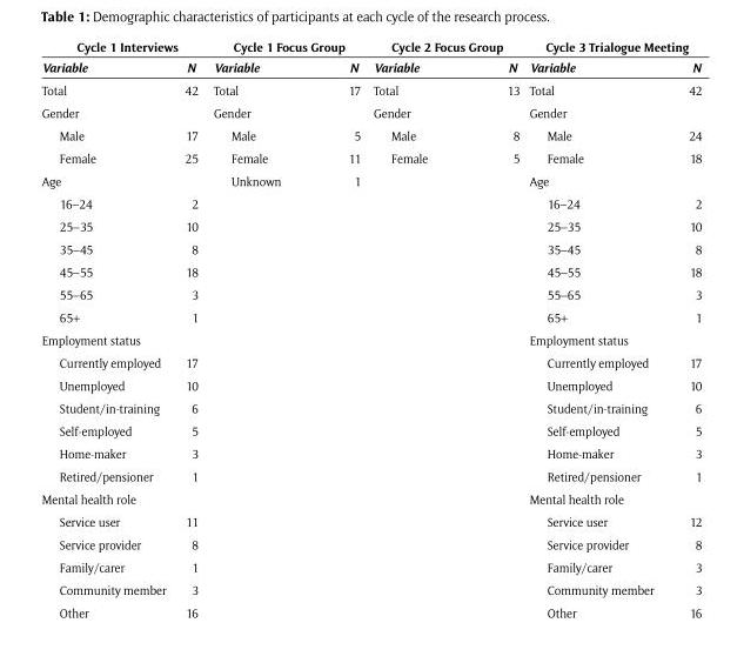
<table><thead><tr><td colspan="2">Cycle 1 Interviews</td><td colspan="2">Cycle 1 Focus Group</td><td colspan="2">Cycle 2 Focus Group</td><td colspan="2">Cycle 3 Trialogue Meeting</td></tr><tr><td>Variable</td><td>N</td><td>Variable</td><td>N</td><td>Variable</td><td>N</td><td>Variable</td><td>N</td></tr></thead><tbody><tr><td>Total</td><td>42</td><td>Total</td><td>17</td><td>Total</td><td>13</td><td>Total</td><td>42</td></tr><tr><td>Gender</td><td></td><td>Gender</td><td></td><td>Gender</td><td></td><td>Gender</td><td></td></tr><tr><td>Male</td><td>17</td><td>Male</td><td>5</td><td>Male</td><td>8</td><td>Male</td><td>24</td></tr><tr><td>Female</td><td>25</td><td>Female</td><td>11</td><td>Female</td><td>5</td><td>Female</td><td>18</td></tr><tr><td>Age</td><td></td><td>Unknown</td><td>1</td><td></td><td></td><td>Age</td><td></td></tr><tr><td>16–24</td><td>2</td><td></td><td></td><td></td><td></td><td>16–24</td><td>2</td></tr><tr><td>25–35</td><td>10</td><td></td><td></td><td></td><td></td><td>25–35</td><td>10</td></tr><tr><td>35–45</td><td>8</td><td></td><td></td><td></td><td></td><td>35–45</td><td>8</td></tr><tr><td>45–55</td><td>18</td><td></td><td></td><td></td><td></td><td>45–55</td><td>18</td></tr><tr><td>55–65</td><td>3</td><td></td><td></td><td></td><td></td><td>55–65</td><td>3</td></tr><tr><td>65+</td><td>1</td><td></td><td></td><td></td><td></td><td>65+</td><td>1</td></tr><tr><td>Employment status</td><td></td><td></td><td></td><td></td><td></td><td>Employment status</td><td></td></tr><tr><td>Currently employed</td><td>17</td><td></td><td></td><td></td><td></td><td>Currently employed</td><td>17</td></tr><tr><td>Unemployed</td><td>10</td><td></td><td></td><td></td><td></td><td>Unemployed</td><td>10</td></tr><tr><td>Student/in-training</td><td>6</td><td></td><td></td><td></td><td></td><td>Student/in-training</td><td>6</td></tr><tr><td>Self-employed</td><td>5</td><td></td><td></td><td></td><td></td><td>Self-employed</td><td>5</td></tr><tr><td>Home-maker</td><td>3</td><td></td><td></td><td></td><td></td><td>Home-maker</td><td>3</td></tr><tr><td>Retired/pensioner</td><td>1</td><td></td><td></td><td></td><td></td><td>Retired/pensioner</td><td>1</td></tr><tr><td>Mental health role</td><td></td><td></td><td></td><td></td><td></td><td>Mental health role</td><td></td></tr><tr><td>Service user</td><td>11</td><td></td><td></td><td></td><td></td><td>Service user</td><td>12</td></tr><tr><td>Service provider</td><td>8</td><td></td><td></td><td></td><td></td><td>Service provider</td><td>8</td></tr><tr><td>Family/carer</td><td>1</td><td></td><td></td><td></td><td></td><td>Family/carer</td><td>3</td></tr><tr><td>Community member</td><td>3</td><td></td><td></td><td></td><td></td><td>Community member</td><td>3</td></tr><tr><td>Other</td><td>16</td><td></td><td></td><td></td><td></td><td>Other</td><td>16</td></tr></tbody></table>